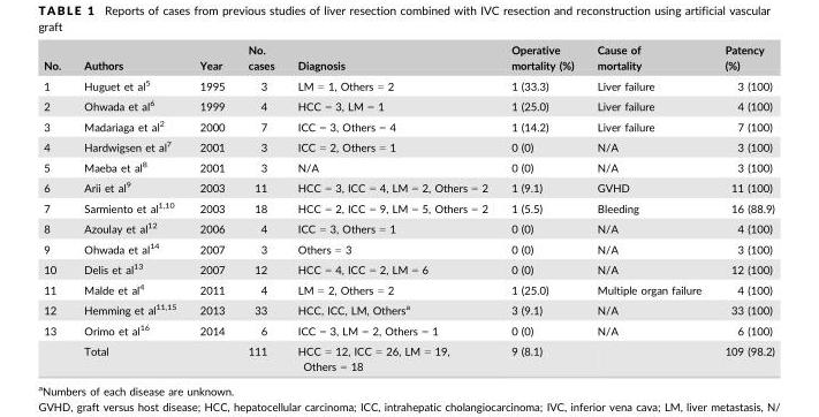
<table><thead><tr><td>No.</td><td>Authors</td><td>Year</td><td>No. cases</td><td>Diagnosis</td><td>Operative mortality (%)</td><td>Cause of mortality</td><td>Patency (%)</td></tr></thead><tbody><tr><td>1</td><td>Huguet et al<sup>5</sup></td><td>1995</td><td>3</td><td>LM = 1, Others = 2</td><td>1 (33.3)</td><td>Liver failure</td><td>3 (100)</td></tr><tr><td>2</td><td>Ohwada et al<sup>6</sup></td><td>1999</td><td>4</td><td>HCC = 3, LM = 1</td><td>1 (25.0)</td><td>Liver failure</td><td>4 (100)</td></tr><tr><td>3</td><td>Madariaga et al<sup>2</sup></td><td>2000</td><td>7</td><td>ICC = 3, Others = 4</td><td>1 (14.2)</td><td>Liver failure</td><td>7 (100)</td></tr><tr><td>4</td><td>Hardwigsen et al<sup>7</sup></td><td>2001</td><td>3</td><td>ICC = 2, Others = 1</td><td>0 (0)</td><td>N/A</td><td>3 (100)</td></tr><tr><td>5</td><td>Maeba et al<sup>8</sup></td><td>2001</td><td>3</td><td>N/A</td><td>0 (0)</td><td>N/A</td><td>3 (100)</td></tr><tr><td>6</td><td>Arii et al<sup>9</sup></td><td>2003</td><td>11</td><td>HCC = 3, ICC = 4, LM = 2, Others = 2</td><td>1 (9.1)</td><td>GVHD</td><td>11 (100)</td></tr><tr><td>7</td><td>Sarmiento et al<sup>1</sup>,<sup>10</sup></td><td>2003</td><td>18</td><td>HCC = 2, ICC = 9, LM = 5, Others = 2</td><td>1 (5.5)</td><td>Bleeding</td><td>16 (88.9)</td></tr><tr><td>8</td><td>Azoulay et al<sup>12</sup></td><td>2006</td><td>4</td><td>ICC = 3, Others = 1</td><td>0 (0)</td><td>N/A</td><td>4 (100)</td></tr><tr><td>9</td><td>Ohwada et al<sup>14</sup></td><td>2007</td><td>3</td><td>Others = 3</td><td>0 (0)</td><td>N/A</td><td>3 (100)</td></tr><tr><td>10</td><td>Delis et al<sup>13</sup></td><td>2007</td><td>12</td><td>HCC = 4, ICC = 2, LM = 6</td><td>0 (0)</td><td>N/A</td><td>12 (100)</td></tr><tr><td>11</td><td>Malde et al<sup>4</sup></td><td>2011</td><td>4</td><td>LM = 2, Others = 2</td><td>1 (25.0)</td><td>Multiple organ failure</td><td>4 (100)</td></tr><tr><td>12</td><td>Hemming et al<sup>11</sup>,<sup>15</sup></td><td>2013</td><td>33</td><td>HCC, ICC, LM, Others<sup>a</sup></td><td>3 (9.1)</td><td>N/A</td><td>33 (100)</td></tr><tr><td rowspan="2">13</td><td>Orimo et al<sup>16</sup></td><td>2014</td><td>6</td><td>ICC = 3, LM = 2, Others = 1</td><td>0 (0)</td><td>N/A</td><td>6 (100)</td></tr><tr><td>Total</td><td></td><td>111</td><td>HCC = 12, ICC = 26, LM = 19, Others = 18</td><td>9 (8.1)</td><td></td><td>109 (98.2)</td></tr></tbody></table>